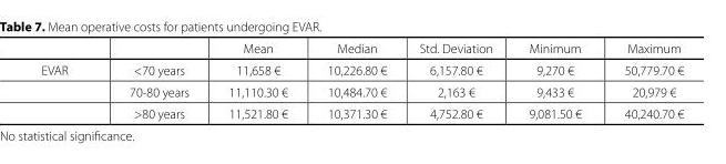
<table><thead><tr><td></td><td></td><td>Mean</td><td>Median</td><td>Std. Deviation</td><td>Minimum</td><td>Maximum</td></tr></thead><tbody><tr><td rowspan="3">EVAR</td><td>&lt;70 years</td><td>11,658 €</td><td>10,226.80 €</td><td>6,157.80 €</td><td>9,270 €</td><td>50,779.70 €</td></tr><tr><td>70-80 years</td><td>11,110.30 €</td><td>10,484.70 €</td><td>2,163 €</td><td>9,433 €</td><td>20,979 €</td></tr><tr><td>&gt;80 years</td><td>11,521.80 €</td><td>10,371.30 €</td><td>4,752.80 €</td><td>9,081.50 €</td><td>40,240.70 €</td></tr></tbody></table>